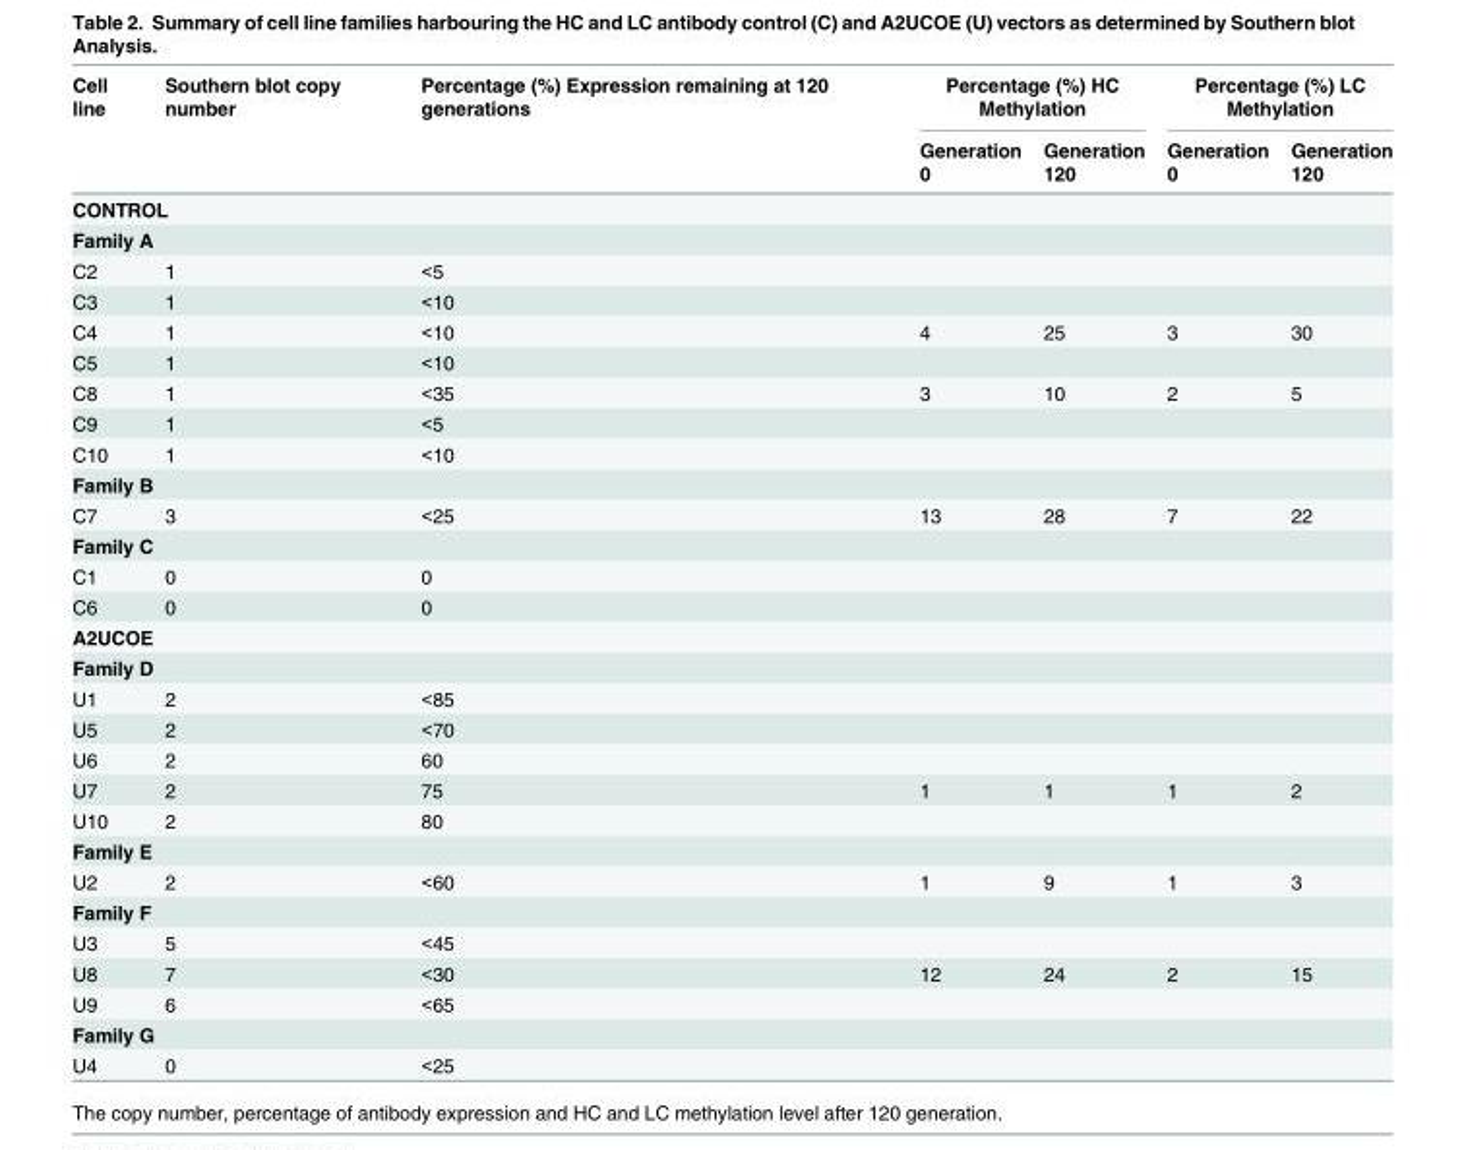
<table><thead><tr><td rowspan="3">Cell line</td><td rowspan="3">Southern blot copy number</td><td rowspan="3">Percentage (%) Expression remaining at 120 generations</td><td colspan="2">Percentage (%) HC Methylation</td><td colspan="2">Percentage (%) LC Methylation</td></tr><tr><td rowspan="2">Generation 0</td><td rowspan="2">Generation 120</td><td rowspan="2">Generation 0</td><td rowspan="2">Generation 120</td></tr><tr></tr></thead><tbody><tr><td colspan="7">CONTROL</td></tr><tr><td colspan="7">Family A</td></tr><tr><td>C2</td><td>1</td><td>&lt;5</td><td></td><td></td><td></td><td></td></tr><tr><td>C3</td><td>1</td><td>&lt;10</td><td></td><td></td><td></td><td></td></tr><tr><td>C4</td><td>1</td><td>&lt;10</td><td>4</td><td>25</td><td>3</td><td>30</td></tr><tr><td>C5</td><td>1</td><td>&lt;10</td><td></td><td></td><td></td><td></td></tr><tr><td>C8</td><td>1</td><td>&lt;35</td><td>3</td><td>10</td><td>2</td><td>5</td></tr><tr><td>C9</td><td>1</td><td>&lt;5</td><td></td><td></td><td></td><td></td></tr><tr><td>C10</td><td>1</td><td>&lt;10</td><td></td><td></td><td></td><td></td></tr><tr><td colspan="7">Family B</td></tr><tr><td>C7</td><td>3</td><td>&lt;25</td><td>13</td><td>28</td><td>7</td><td>22</td></tr><tr><td colspan="7">Family C</td></tr><tr><td>C1</td><td>0</td><td>0</td><td></td><td></td><td></td><td></td></tr><tr><td>C6</td><td>0</td><td>0</td><td></td><td></td><td></td><td></td></tr><tr><td colspan="7">A2UCOE</td></tr><tr><td colspan="7">Family D</td></tr><tr><td>U1</td><td>2</td><td>&lt;85</td><td></td><td></td><td></td><td></td></tr><tr><td>U5</td><td>2</td><td>&lt;70</td><td></td><td></td><td></td><td></td></tr><tr><td>U6</td><td>2</td><td>60</td><td></td><td></td><td></td><td></td></tr><tr><td>U7</td><td>2</td><td>75</td><td>1</td><td>1</td><td>1</td><td>2</td></tr><tr><td>U10</td><td>2</td><td>80</td><td></td><td></td><td></td><td></td></tr><tr><td colspan="7">Family E</td></tr><tr><td>U2</td><td>2</td><td>&lt;60</td><td>1</td><td>9</td><td>1</td><td>3</td></tr><tr><td colspan="7">Family F</td></tr><tr><td>U3</td><td>5</td><td>&lt;45</td><td></td><td></td><td></td><td></td></tr><tr><td>U8</td><td>7</td><td>&lt;30</td><td>12</td><td>24</td><td>2</td><td>15</td></tr><tr><td>U9</td><td>6</td><td>&lt;65</td><td></td><td></td><td></td><td></td></tr><tr><td colspan="7">Family G</td></tr><tr><td>U4</td><td>0</td><td>&lt;25</td><td></td><td></td><td></td><td></td></tr></tbody></table>